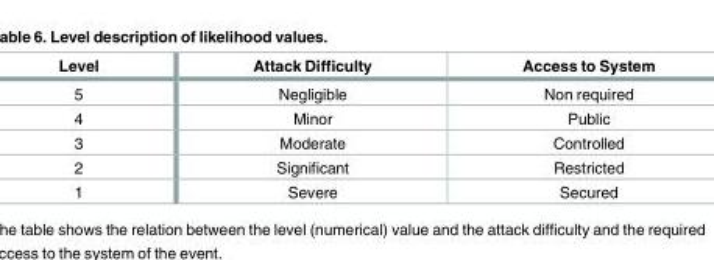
<table><thead><tr><td>Level</td><td>Attack Difficulty</td><td>Access to System</td></tr></thead><tbody><tr><td>5</td><td>Negligible</td><td>Non required</td></tr><tr><td>4</td><td>Minor</td><td>Public</td></tr><tr><td>3</td><td>Moderate</td><td>Controlled</td></tr><tr><td>2</td><td>Significant</td><td>Restricted</td></tr><tr><td>1</td><td>Severe</td><td>Secured</td></tr></tbody></table>